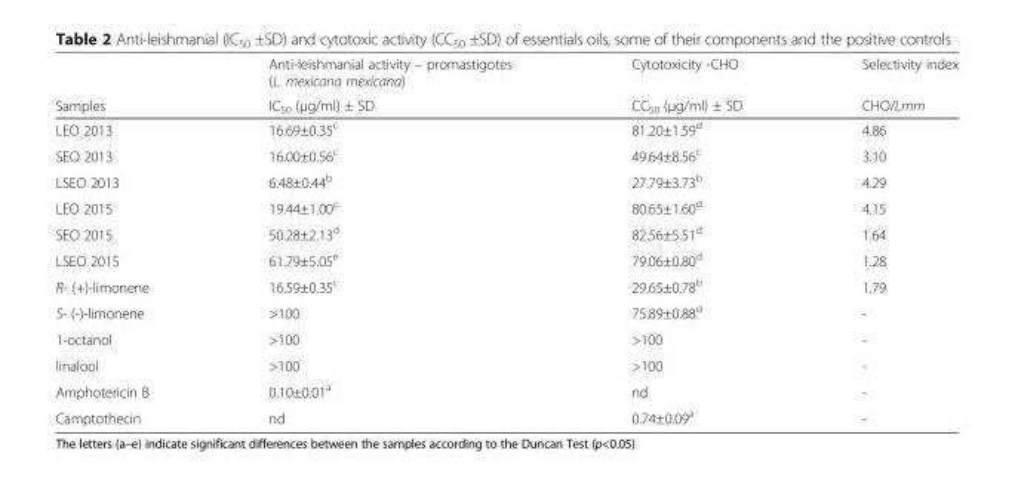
<table><thead><tr><td rowspan="2">Samples</td><td rowspan="2">Anti-leishmanial activity – promastigotes (L. mexicana mexicana) IC<sub>50</sub> (μg/ml) ± SD</td><td rowspan="2">Cytotoxicity -CHO CC<sub>50</sub> (μg/ml) ± SD</td><td rowspan="2">Selectivity index CHO/Lmm</td></tr><tr></tr></thead><tbody><tr><td>LEO 2013</td><td>16.69±0.35<sup>c</sup></td><td>81.20±1.59<sup>d</sup></td><td>4.86</td></tr><tr><td>SEO 2013</td><td>16.00±0.56<sup>c</sup></td><td>49.64±8.56<sup>c</sup></td><td>3.10</td></tr><tr><td>LSEO 2013</td><td>6.48±0.44<sup>b</sup></td><td>27.79±3.73<sup>b</sup></td><td>4.29</td></tr><tr><td>LEO 2015</td><td>19.44±1.00<sup>c</sup></td><td>80.65±1.60<sup>d</sup></td><td>4.15</td></tr><tr><td>SEO 2015</td><td>50.28±2.13<sup>d</sup></td><td>82.56±5.51<sup>d</sup></td><td>1.64</td></tr><tr><td>LSEO 2015</td><td>61.79±5.05<sup>e</sup></td><td>79.06±0.80<sup>d</sup></td><td>1.28</td></tr><tr><td>R- (+)-limonene</td><td>16.59±0.35<sup>c</sup></td><td>29.65±0.78<sup>b</sup></td><td>1.79</td></tr><tr><td>S- (-)-limonene</td><td>&gt;100</td><td>75.89±0.88<sup>d</sup></td><td>-</td></tr><tr><td>1-octanol</td><td>&gt;100</td><td>&gt;100</td><td>-</td></tr><tr><td>linalool</td><td>&gt;100</td><td>&gt;100</td><td>-</td></tr><tr><td>Amphotericin B</td><td>0.10±0.01<sup>a</sup></td><td>nd</td><td>-</td></tr><tr><td>Camptothecin</td><td>nd</td><td>0.74±0.09<sup>a</sup></td><td>-</td></tr></tbody></table>